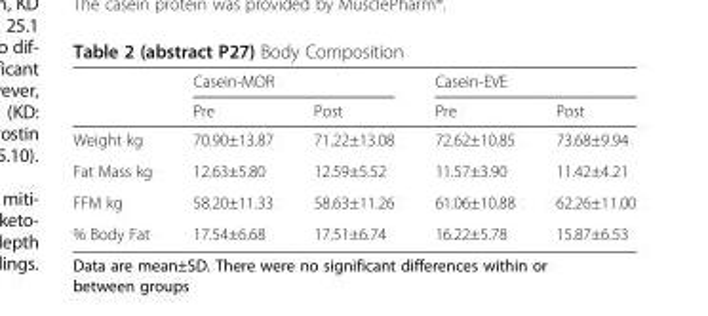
<table><thead><tr><td rowspan="2"></td><td colspan="2">Casein-MOR</td><td colspan="2">Casein-EVE</td></tr><tr><td>Pre</td><td>Post</td><td>Pre</td><td>Post</td></tr></thead><tbody><tr><td>Weight kg</td><td>70.90±13.87</td><td>71.22±13.08</td><td>72.62±10.85</td><td>73.68±9.94</td></tr><tr><td>Fat Mass kg</td><td>12.63±5.80</td><td>12.59±5.52</td><td>11.57±3.90</td><td>11.42±4.21</td></tr><tr><td>FFM kg</td><td>58.20±11.33</td><td>58.63±11.26</td><td>61.06±10.88</td><td>62.26±11.00</td></tr><tr><td>% Body Fat</td><td>17.54±6.68</td><td>17.51±6.74</td><td>16.22±5.78</td><td>15.87±6.53</td></tr></tbody></table>